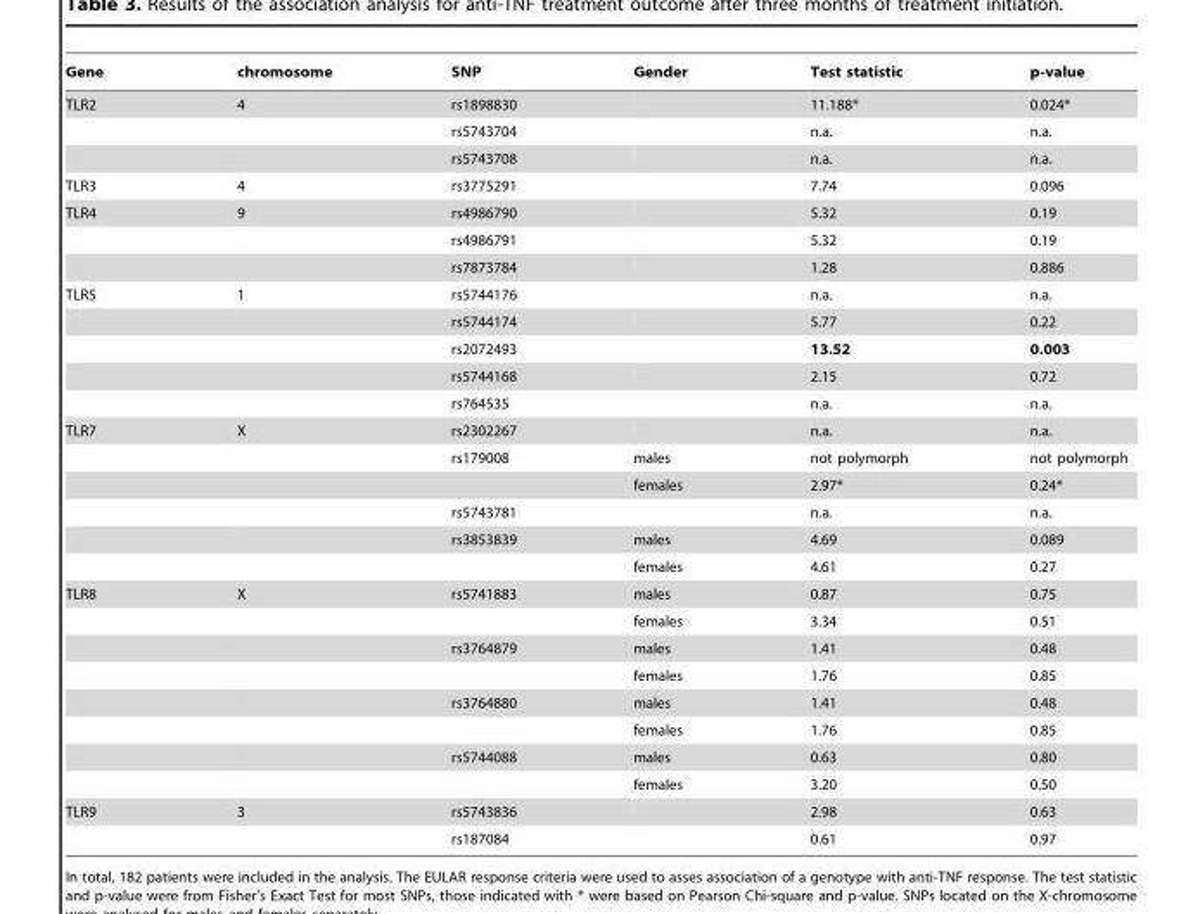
<table><thead><tr><td>Gene</td><td>chromosome</td><td>SNP</td><td>Gender</td><td>Test statistic</td><td>p-value</td></tr></thead><tbody><tr><td rowspan="3">TLR2</td><td>4</td><td>rs1898830</td><td></td><td>11.188*</td><td>0.024*</td></tr><tr><td></td><td>rs5743704</td><td></td><td>n.a.</td><td>n.a.</td></tr><tr><td></td><td>rs5743708</td><td></td><td>n.a.</td><td>n.a.</td></tr><tr><td>TLR3</td><td>4</td><td>rs3775291</td><td></td><td>7.74</td><td>0.096</td></tr><tr><td rowspan="3">TLR4</td><td>9</td><td>rs4986790</td><td></td><td>5.32</td><td>0.19</td></tr><tr><td></td><td>rs4986791</td><td></td><td>5.32</td><td>0.19</td></tr><tr><td></td><td>rs7873784</td><td></td><td>1.28</td><td>0.886</td></tr><tr><td rowspan="5">TLR5</td><td>1</td><td>rs5744176</td><td></td><td>n.a.</td><td>n.a.</td></tr><tr><td></td><td>rs5744174</td><td></td><td>5.77</td><td>0.22</td></tr><tr><td></td><td>rs2072493</td><td></td><td>13.52</td><td>0.003</td></tr><tr><td></td><td>rs5744168</td><td></td><td>2.15</td><td>0.72</td></tr><tr><td></td><td>rs764535</td><td></td><td>n.a.</td><td>n.a.</td></tr><tr><td rowspan="6">TLR7</td><td>X</td><td>rs2302267</td><td></td><td>n.a.</td><td>n.a.</td></tr><tr><td></td><td>rs179008</td><td>males</td><td>not polymorph</td><td>not polymorph</td></tr><tr><td></td><td></td><td>females</td><td>2.97*</td><td>0.24*</td></tr><tr><td></td><td>rs5743781</td><td></td><td>n.a.</td><td>n.a.</td></tr><tr><td></td><td>rs3853839</td><td>males</td><td>4.69</td><td>0.089</td></tr><tr><td></td><td></td><td>females</td><td>4.61</td><td>0.27</td></tr><tr><td rowspan="8">TLR8</td><td>X</td><td>rs5741883</td><td>males</td><td>0.87</td><td>0.75</td></tr><tr><td></td><td></td><td>females</td><td>3.34</td><td>0.51</td></tr><tr><td></td><td>rs3764879</td><td>males</td><td>1.41</td><td>0.48</td></tr><tr><td></td><td></td><td>females</td><td>1.76</td><td>0.85</td></tr><tr><td></td><td>rs3764880</td><td>males</td><td>1.41</td><td>0.48</td></tr><tr><td></td><td></td><td>females</td><td>1.76</td><td>0.85</td></tr><tr><td></td><td>rs5744088</td><td>males</td><td>0.63</td><td>0.80</td></tr><tr><td></td><td></td><td>females</td><td>3.20</td><td>0.50</td></tr><tr><td rowspan="2">TLR9</td><td>3</td><td>rs5743836</td><td></td><td>2.98</td><td>0.63</td></tr><tr><td></td><td>rs187084</td><td></td><td>0.61</td><td>0.97</td></tr></tbody></table>